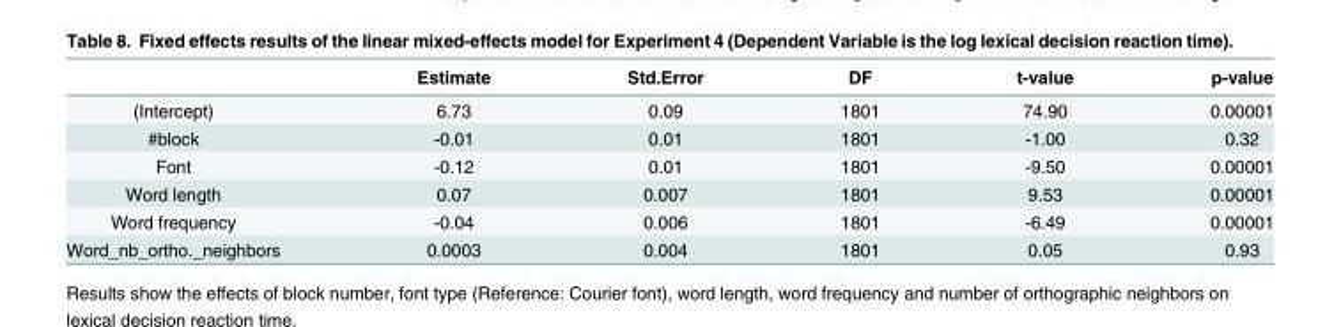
<table><thead><tr><td></td><td>Estimate</td><td>Std.Error</td><td>DF</td><td>t-value</td><td>p-value</td></tr></thead><tbody><tr><td>(Intercept)</td><td>6.73</td><td>0.09</td><td>1801</td><td>74.90</td><td>0.00001</td></tr><tr><td>#block</td><td>-0.01</td><td>0.01</td><td>1801</td><td>-1.00</td><td>0.32</td></tr><tr><td>Font</td><td>-0.12</td><td>0.01</td><td>1801</td><td>-9.50</td><td>0.00001</td></tr><tr><td>Word length</td><td>0.07</td><td>0.007</td><td>1801</td><td>9.53</td><td>0.00001</td></tr><tr><td>Word frequency</td><td>-0.04</td><td>0.006</td><td>1801</td><td>-6.49</td><td>0.00001</td></tr><tr><td>Word_nb_ortho._neighbors</td><td>0.0003</td><td>0.004</td><td>1801</td><td>0.05</td><td>0.93</td></tr></tbody></table>